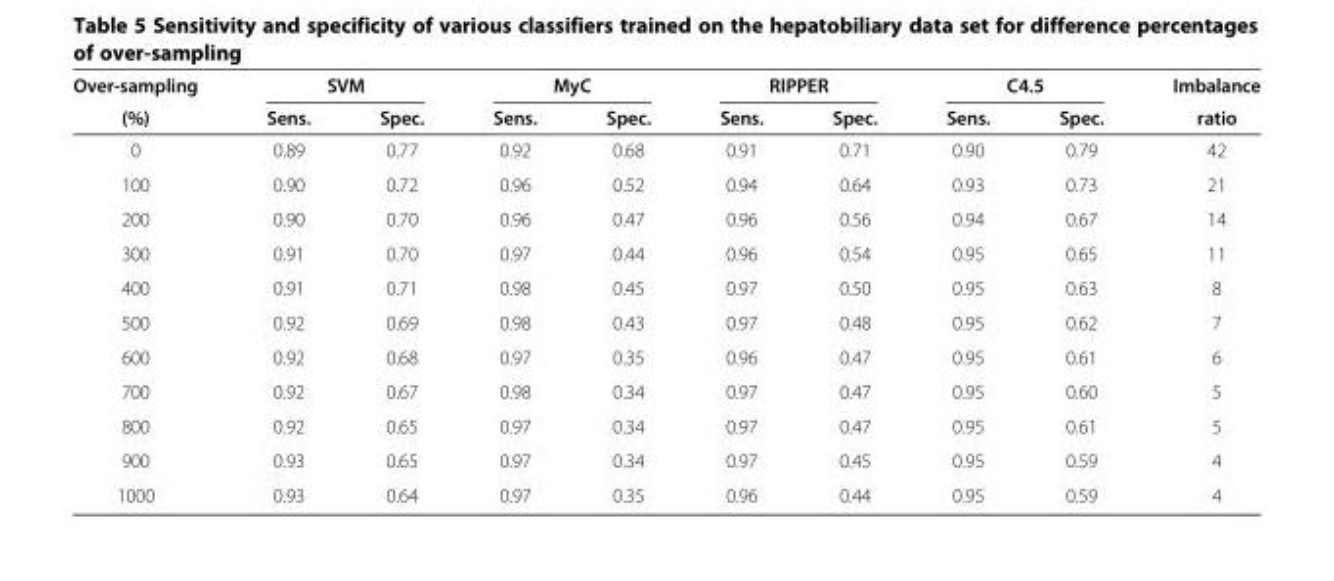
<table><thead><tr><td rowspan="2">Over-sampling (%)</td><td colspan="2">SVM</td><td colspan="2">MyC</td><td colspan="2">RIPPER</td><td colspan="2">C4.5</td><td rowspan="2">Imbalance ratio</td></tr><tr><td>Sens.</td><td>Spec.</td><td>Sens.</td><td>Spec.</td><td>Sens.</td><td>Spec.</td><td>Sens.</td><td>Spec.</td></tr></thead><tbody><tr><td>0</td><td>0.89</td><td>0.77</td><td>0.92</td><td>0.68</td><td>0.91</td><td>0.71</td><td>0.90</td><td>0.79</td><td>42</td></tr><tr><td>100</td><td>0.90</td><td>0.72</td><td>0.96</td><td>0.52</td><td>0.94</td><td>0.64</td><td>0.93</td><td>0.73</td><td>21</td></tr><tr><td>200</td><td>0.90</td><td>0.70</td><td>0.96</td><td>0.47</td><td>0.96</td><td>0.56</td><td>0.94</td><td>0.67</td><td>14</td></tr><tr><td>300</td><td>0.91</td><td>0.70</td><td>0.97</td><td>0.44</td><td>0.96</td><td>0.54</td><td>0.95</td><td>0.65</td><td>11</td></tr><tr><td>400</td><td>0.91</td><td>0.71</td><td>0.98</td><td>0.45</td><td>0.97</td><td>0.50</td><td>0.95</td><td>0.63</td><td>8</td></tr><tr><td>500</td><td>0.92</td><td>0.69</td><td>0.98</td><td>0.43</td><td>0.97</td><td>0.48</td><td>0.95</td><td>0.62</td><td>7</td></tr><tr><td>600</td><td>0.92</td><td>0.68</td><td>0.97</td><td>0.35</td><td>0.96</td><td>0.47</td><td>0.95</td><td>0.61</td><td>6</td></tr><tr><td>700</td><td>0.92</td><td>0.67</td><td>0.98</td><td>0.34</td><td>0.97</td><td>0.47</td><td>0.95</td><td>0.60</td><td>5</td></tr><tr><td>800</td><td>0.92</td><td>0.65</td><td>0.97</td><td>0.34</td><td>0.97</td><td>0.47</td><td>0.95</td><td>0.61</td><td>5</td></tr><tr><td>900</td><td>0.93</td><td>0.65</td><td>0.97</td><td>0.34</td><td>0.97</td><td>0.45</td><td>0.95</td><td>0.59</td><td>4</td></tr><tr><td>1000</td><td>0.93</td><td>0.64</td><td>0.97</td><td>0.35</td><td>0.96</td><td>0.44</td><td>0.95</td><td>0.59</td><td>4</td></tr></tbody></table>